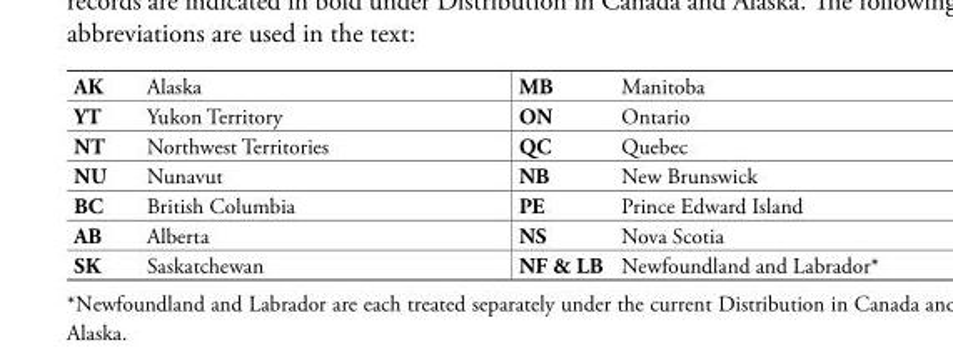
<table><tbody><tr><td>AK</td><td>Alaska</td><td>MB</td><td>Manitoba</td></tr><tr><td>YT</td><td>Yukon Territory</td><td>ON</td><td>Ontario</td></tr><tr><td>NT</td><td>Northwest Territories</td><td>QC</td><td>Quebec</td></tr><tr><td>NU</td><td>Nunavut</td><td>NB</td><td>New Brunswick</td></tr><tr><td>BC</td><td>British Columbia</td><td>PE</td><td>Prince Edward Island</td></tr><tr><td>AB</td><td>Alberta</td><td>NS</td><td>Nova Scotia</td></tr><tr><td>SK</td><td>Saskatchewan</td><td>NF &amp; LB</td><td>Newfoundland and Labrador*</td></tr></tbody></table>